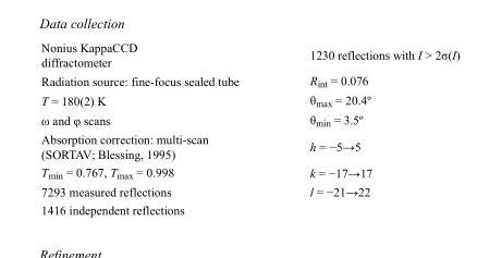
<table><tbody><tr><td>Nonius KappaCCD diffractometer</td><td>1230 reflections with I &gt; 2σ(I)</td></tr><tr><td>Radiation source: fine-focus sealed tube</td><td>R<sub>int</sub> = 0.076</td></tr><tr><td>T = 180(2) K</td><td>θ<sub>max</sub> = 20.4º</td></tr><tr><td>ω and φ scans</td><td>θ<sub>min</sub> = 3.5º</td></tr><tr><td>Absorption correction: multi-scan (SORTAV; Blessing, 1995)</td><td>h = −5→5</td></tr><tr><td>T<sub>min</sub> = 0.767, T<sub>max</sub> = 0.998</td><td>k = −17→17</td></tr><tr><td>7293 measured reflections</td><td>l = −21→22</td></tr><tr><td>1416 independent reflections</td><td></td></tr></tbody></table>